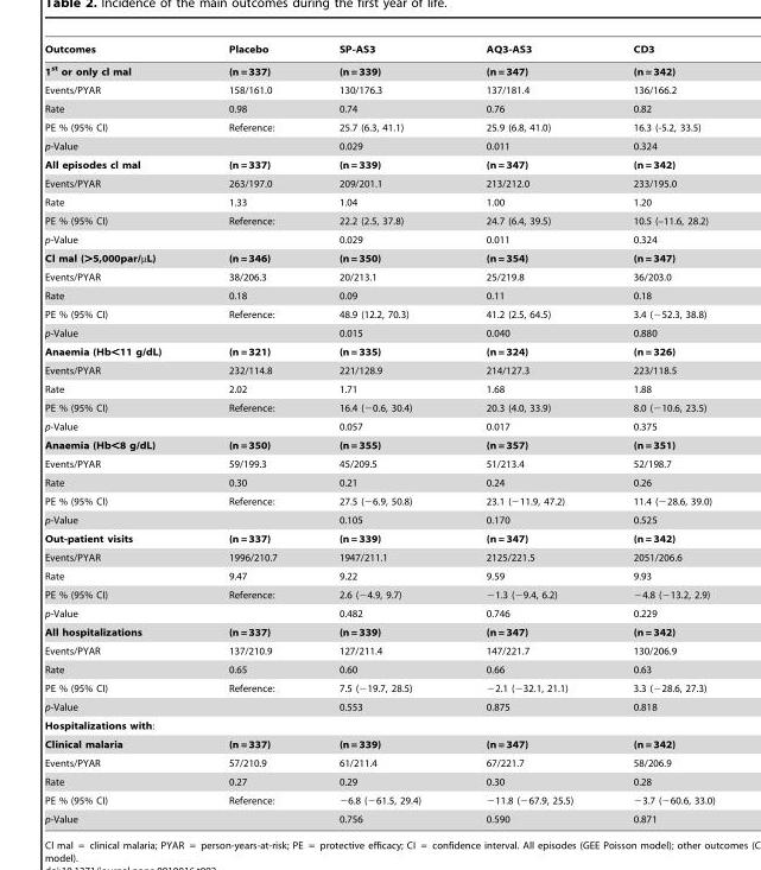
<table><thead><tr><td>Outcomes</td><td>Placebo</td><td>SP-AS3</td><td>AQ3-AS3</td><td>CD3</td></tr></thead><tbody><tr><td>1<sup>st</sup> or only cl mal</td><td>(n = 337)</td><td>(n = 339)</td><td>(n = 347)</td><td>(n = 342)</td></tr><tr><td>Events/PYAR</td><td>158/161.0</td><td>130/176.3</td><td>137/181.4</td><td>136/166.2</td></tr><tr><td>Rate</td><td>0.98</td><td>0.74</td><td>0.76</td><td>0.82</td></tr><tr><td>PE % (95% CI)</td><td>Reference:</td><td>25.7 (6.3, 41.1)</td><td>25.9 (6.8, 41.0)</td><td>16.3 (-5.2, 33.5)</td></tr><tr><td>p-Value</td><td></td><td>0.029</td><td>0.011</td><td>0.324</td></tr><tr><td>All episodes cl mal</td><td>(n = 337)</td><td>(n = 339)</td><td>(n = 347)</td><td>(n = 342)</td></tr><tr><td>Events/PYAR</td><td>263/197.0</td><td>209/201.1</td><td>213/212.0</td><td>233/195.0</td></tr><tr><td>Rate</td><td>1.33</td><td>1.04</td><td>1.00</td><td>1.20</td></tr><tr><td>PE % (95% CI)</td><td>Reference:</td><td>22.2 (2.5, 37.8)</td><td>24.7 (6.4, 39.5)</td><td>10.5 (–11.6, 28.2)</td></tr><tr><td>p-Value</td><td></td><td>0.029</td><td>0.011</td><td>0.324</td></tr><tr><td>Cl mal (&gt;5,000par/µL)</td><td>(n = 346)</td><td>(n = 350)</td><td>(n = 354)</td><td>(n = 347)</td></tr><tr><td>Events/PYAR</td><td>38/206.3</td><td>20/213.1</td><td>25/219.8</td><td>36/203.0</td></tr><tr><td>Rate</td><td>0.18</td><td>0.09</td><td>0.11</td><td>0.18</td></tr><tr><td>PE % (95% CI)</td><td>Reference:</td><td>48.9 (12.2, 70.3)</td><td>41.2 (2.5, 64.5)</td><td>3.4 (−52.3, 38.8)</td></tr><tr><td>p-Value</td><td></td><td>0.015</td><td>0.040</td><td>0.880</td></tr><tr><td>Anaemia (Hb&lt;11 g/dL)</td><td>(n = 321)</td><td>(n = 335)</td><td>(n = 324)</td><td>(n = 326)</td></tr><tr><td>Events/PYAR</td><td>232/114.8</td><td>221/128.9</td><td>214/127.3</td><td>223/118.5</td></tr><tr><td>Rate</td><td>2.02</td><td>1.71</td><td>1.68</td><td>1.88</td></tr><tr><td>PE % (95% CI)</td><td>Reference:</td><td>16.4 (−0.6, 30.4)</td><td>20.3 (4.0, 33.9)</td><td>8.0 (−10.6, 23.5)</td></tr><tr><td>p-Value</td><td></td><td>0.057</td><td>0.017</td><td>0.375</td></tr><tr><td>Anaemia (Hb&lt;8 g/dL)</td><td>(n = 350)</td><td>(n = 355)</td><td>(n = 357)</td><td>(n = 351)</td></tr><tr><td>Events/PYAR</td><td>59/199.3</td><td>45/209.5</td><td>51/213.4</td><td>52/198.7</td></tr><tr><td>Rate</td><td>0.30</td><td>0.21</td><td>0.24</td><td>0.26</td></tr><tr><td>PE % (95% CI)</td><td>Reference:</td><td>27.5 (−6.9, 50.8)</td><td>23.1 (−11.9, 47.2)</td><td>11.4 (−28.6, 39.0)</td></tr><tr><td>p-Value</td><td></td><td>0.105</td><td>0.170</td><td>0.525</td></tr><tr><td>Out-patient visits</td><td>(n = 337)</td><td>(n = 339)</td><td>(n = 347)</td><td>(n = 342)</td></tr><tr><td>Events/PYAR</td><td>1996/210.7</td><td>1947/211.1</td><td>2125/221.5</td><td>2051/206.6</td></tr><tr><td>Rate</td><td>9.47</td><td>9.22</td><td>9.59</td><td>9.93</td></tr><tr><td>PE % (95% CI)</td><td>Reference:</td><td>2.6 (−4.9, 9.7)</td><td>−1.3 (−9.4, 6.2)</td><td>−4.8 (−13.2, 2.9)</td></tr><tr><td>p-Value</td><td></td><td>0.482</td><td>0.746</td><td>0.229</td></tr><tr><td>All hospitalizations</td><td>(n = 337)</td><td>(n = 339)</td><td>(n = 347)</td><td>(n = 342)</td></tr><tr><td>Events/PYAR</td><td>137/210.9</td><td>127/211.4</td><td>147/221.7</td><td>130/206.9</td></tr><tr><td>Rate</td><td>0.65</td><td>0.60</td><td>0.66</td><td>0.63</td></tr><tr><td>PE % (95% CI)</td><td>Reference:</td><td>7.5 (−19.7, 28.5)</td><td>−2.1 (−32.1, 21.1)</td><td>3.3 (−28.6, 27.3)</td></tr><tr><td>p-Value</td><td></td><td>0.553</td><td>0.875</td><td>0.818</td></tr><tr><td colspan="5">Hospitalizations with:</td></tr><tr><td>Clinical malaria</td><td>(n = 337)</td><td>(n = 339)</td><td>(n = 347)</td><td>(n = 342)</td></tr><tr><td>Events/PYAR</td><td>57/210.9</td><td>61/211.4</td><td>67/221.7</td><td>58/206.9</td></tr><tr><td>Rate</td><td>0.27</td><td>0.29</td><td>0.30</td><td>0.28</td></tr><tr><td>PE % (95% CI)</td><td>Reference:</td><td>−6.8 (−61.5, 29.4)</td><td>−11.8 (−67.9, 25.5)</td><td>−3.7 (−60.6, 33.0)</td></tr><tr><td>p-Value</td><td></td><td>0.756</td><td>0.590</td><td>0.871</td></tr></tbody></table>